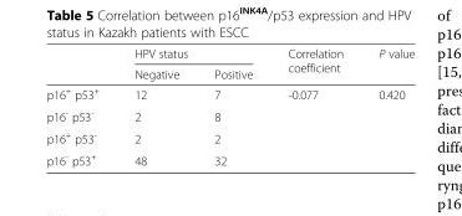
<table><thead><tr><td rowspan="2"></td><td colspan="2">HPV status</td><td rowspan="2">Correlation coefficient</td><td rowspan="2">P value</td></tr><tr><td>Negative</td><td>Positive</td></tr></thead><tbody><tr><td>p16<sup>+</sup> p53<sup>+</sup></td><td>12</td><td>7</td><td rowspan="4">-0.077</td><td rowspan="4">0.420</td></tr><tr><td>p16<sup>-</sup> p53<sup>-</sup></td><td>2</td><td>8</td></tr><tr><td>p16<sup>+</sup> p53<sup>-</sup></td><td>2</td><td>2</td></tr><tr><td>p16<sup>-</sup> p53<sup>+</sup></td><td>48</td><td>32</td></tr></tbody></table>